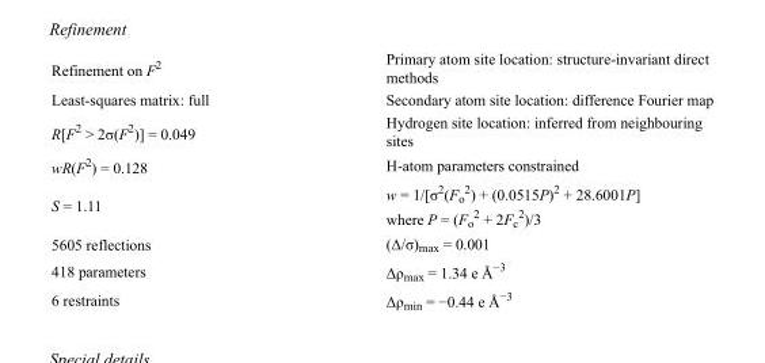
<table><tbody><tr><td>Refinement on F<sup>2</sup></td><td>Primary atom site location: structure-invariant direct methods</td></tr><tr><td>Least-squares matrix: full</td><td>Secondary atom site location: difference Fourier map</td></tr><tr><td>R[F<sup>2</sup> &gt; 2σ(F<sup>2</sup>)] = 0.049</td><td>Hydrogen site location: inferred from neighbouring sites</td></tr><tr><td>wR(F<sup>2</sup>) = 0.128</td><td>H-atom parameters constrained</td></tr><tr><td>S = 1.11</td><td>w = 1/[σ<sup>2</sup>(F<sub>o</sub> <sup>2</sup>) + (0.0515P)<sup>2</sup> + 28.6001P] where P = (F<sub>o</sub> <sup>2</sup> + 2F<sub>c</sub> <sup>2</sup>)/3</td></tr><tr><td>5605 reflections</td><td>(Δ/σ)<sub>max</sub> = 0.001</td></tr><tr><td>418 parameters</td><td>Δρ<sub>max</sub> = 1.34 e Å<sup>−3</sup></td></tr><tr><td>6 restraints</td><td>Δρ<sub>min</sub> = −0.44 e Å<sup>−3</sup></td></tr></tbody></table>